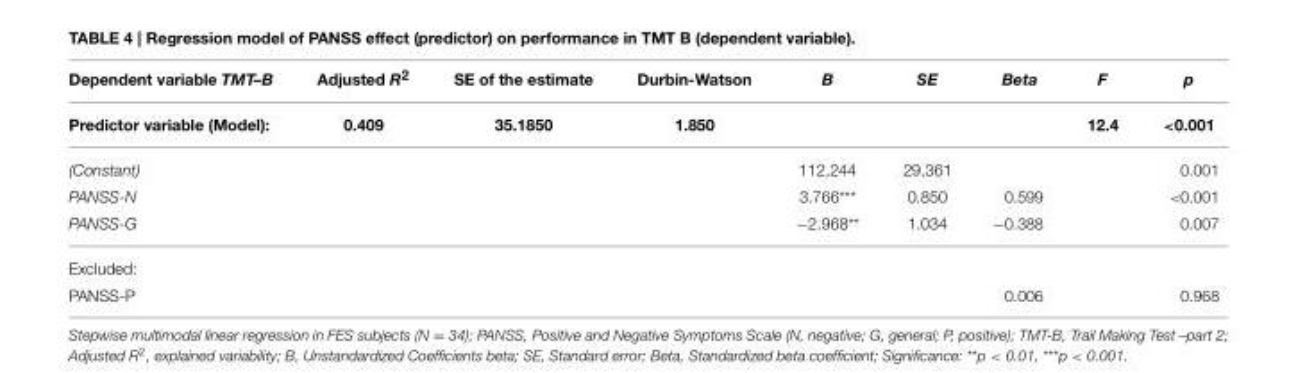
<table><thead><tr><td>Dependent variable TMT–B</td><td>Adjusted R<sup>2</sup></td><td>SE of the estimate</td><td>Durbin-Watson</td><td>B</td><td>SE</td><td>Beta</td><td>F</td><td>p</td></tr></thead><tbody><tr><td>Predictor variable (Model):</td><td>0.409</td><td>35.1850</td><td>1.850</td><td></td><td></td><td></td><td>12.4</td><td>&lt;0.001</td></tr><tr><td>(Constant)</td><td></td><td></td><td></td><td>112,244</td><td>29,361</td><td></td><td></td><td>0.001</td></tr><tr><td>PANSS-N</td><td></td><td></td><td></td><td>3.766***</td><td>0.850</td><td>0.599</td><td></td><td>&lt;0.001</td></tr><tr><td>PANSS-G</td><td></td><td></td><td></td><td>−2.968**</td><td>1.034</td><td>−0.388</td><td></td><td>0.007</td></tr><tr><td colspan="9">Excluded:</td></tr><tr><td>PANSS-P</td><td></td><td></td><td></td><td></td><td></td><td>0.006</td><td></td><td>0.968</td></tr></tbody></table>